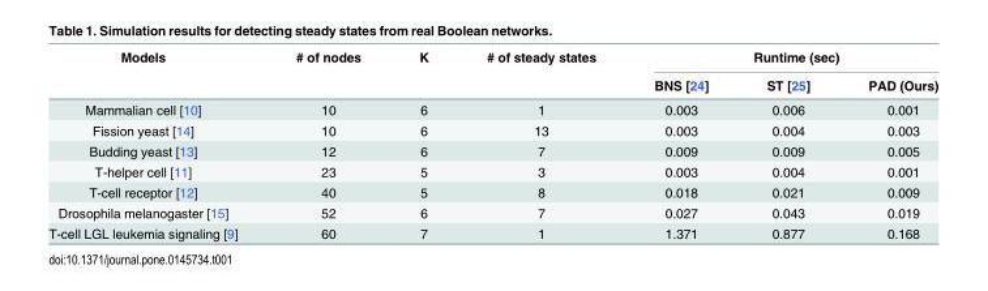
<table><thead><tr><td rowspan="2">Models</td><td rowspan="2"># of nodes</td><td rowspan="2">K</td><td rowspan="2"># of steady states</td><td colspan="3">Runtime (sec)</td></tr><tr><td>BNS [24]</td><td>ST [25]</td><td>PAD (Ours)</td></tr></thead><tbody><tr><td>Mammalian cell [10]</td><td>10</td><td>6</td><td>1</td><td>0.003</td><td>0.006</td><td>0.001</td></tr><tr><td>Fission yeast [14]</td><td>10</td><td>6</td><td>13</td><td>0.003</td><td>0.004</td><td>0.003</td></tr><tr><td>Budding yeast [13]</td><td>12</td><td>6</td><td>7</td><td>0.009</td><td>0.009</td><td>0.005</td></tr><tr><td>T-helper cell [11]</td><td>23</td><td>5</td><td>3</td><td>0.003</td><td>0.004</td><td>0.001</td></tr><tr><td>T-cell receptor [12]</td><td>40</td><td>5</td><td>8</td><td>0.018</td><td>0.021</td><td>0.009</td></tr><tr><td>Drosophila melanogaster [15]</td><td>52</td><td>6</td><td>7</td><td>0.027</td><td>0.043</td><td>0.019</td></tr><tr><td>T-cell LGL leukemia signaling [9]</td><td>60</td><td>7</td><td>1</td><td>1.371</td><td>0.877</td><td>0.168</td></tr></tbody></table>